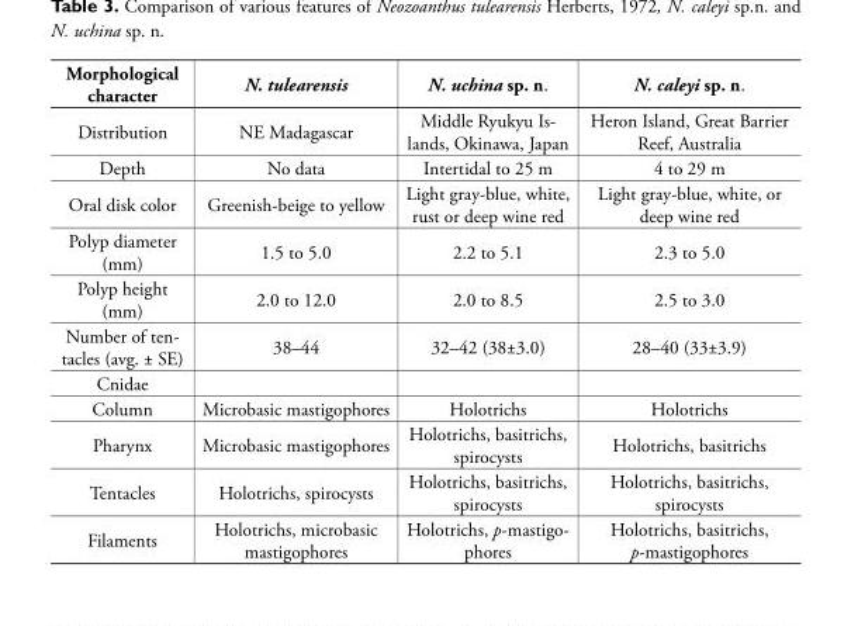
<table><tbody><tr><td>Morphological character</td><td>N. tulearensis</td><td>N. uchina sp. n.</td><td>N. caleyi sp. n.</td></tr><tr><td>Distribution</td><td>NE Madagascar</td><td>Middle Ryukyu Is- lands, Okinawa, Japan</td><td>Heron Island, Great Barrier Reef, Australia</td></tr><tr><td>Depth</td><td>No data</td><td>Intertidal to 25 m</td><td>4 to 29 m</td></tr><tr><td>Oral disk color</td><td>Greenish-beige to yellow</td><td>Light gray-blue, white, rust or deep wine red</td><td>Light gray-blue, white, or deep wine red</td></tr><tr><td>Polyp diameter (mm)</td><td>1.5 to 5.0</td><td>2.2 to 5.1</td><td>2.3 to 5.0</td></tr><tr><td>Polyp height (mm)</td><td>2.0 to 12.0</td><td>2.0 to 8.5</td><td>2.5 to 3.0</td></tr><tr><td>Number of ten- tacles (avg. ± SE)</td><td>38–44</td><td>32–42 (38±3.0)</td><td>28–40 (33±3.9)</td></tr><tr><td colspan="4">Cnidae</td></tr><tr><td>Column</td><td>Microbasic mastigophores</td><td>Holotrichs</td><td>Holotrichs</td></tr><tr><td>Pharynx</td><td>Microbasic mastigophores</td><td>Holotrichs, basitrichs, spirocysts</td><td>Holotrichs, basitrichs</td></tr><tr><td>Tentacles</td><td>Holotrichs, spirocysts</td><td>Holotrichs, basitrichs, spirocysts</td><td>Holotrichs, basitrichs, spirocysts</td></tr><tr><td>Filaments</td><td>Holotrichs, microbasic mastigophores</td><td>Holotrichs, p-mastigo- phores</td><td>Holotrichs, basitrichs, p-mastigophores</td></tr></tbody></table>